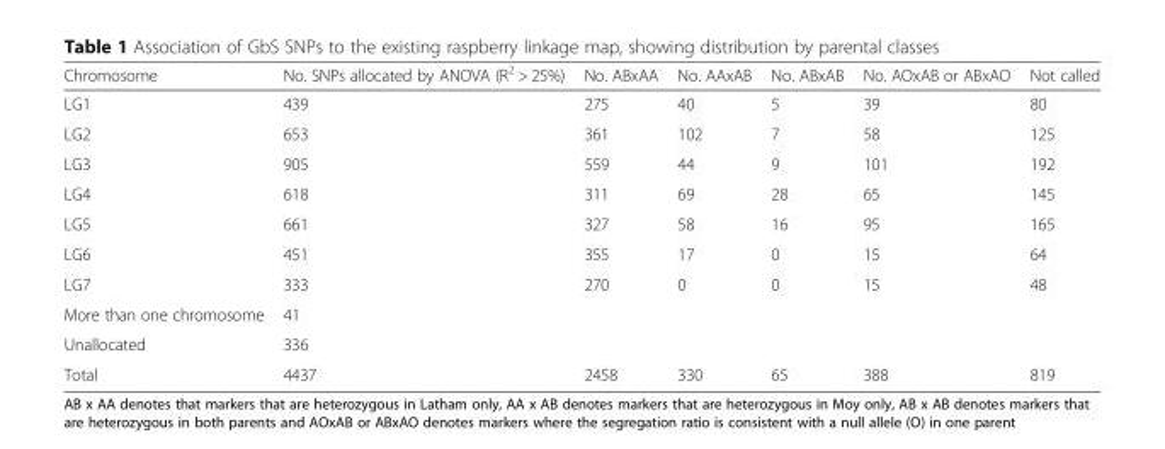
<table><thead><tr><td>Chromosome</td><td>No. SNPs allocated by ANOVA (R<sup>2</sup> &gt; 25%)</td><td>No. ABxAA</td><td>No. AAxAB</td><td>No. ABxAB</td><td>No. AOxAB or ABxAO</td><td>Not called</td></tr></thead><tbody><tr><td>LG1</td><td>439</td><td>275</td><td>40</td><td>5</td><td>39</td><td>80</td></tr><tr><td>LG2</td><td>653</td><td>361</td><td>102</td><td>7</td><td>58</td><td>125</td></tr><tr><td>LG3</td><td>905</td><td>559</td><td>44</td><td>9</td><td>101</td><td>192</td></tr><tr><td>LG4</td><td>618</td><td>311</td><td>69</td><td>28</td><td>65</td><td>145</td></tr><tr><td>LG5</td><td>661</td><td>327</td><td>58</td><td>16</td><td>95</td><td>165</td></tr><tr><td>LG6</td><td>451</td><td>355</td><td>17</td><td>0</td><td>15</td><td>64</td></tr><tr><td>LG7</td><td>333</td><td>270</td><td>0</td><td>0</td><td>15</td><td>48</td></tr><tr><td>More than one chromosome</td><td>41</td><td></td><td></td><td></td><td></td><td></td></tr><tr><td>Unallocated</td><td>336</td><td></td><td></td><td></td><td></td><td></td></tr><tr><td>Total</td><td>4437</td><td>2458</td><td>330</td><td>65</td><td>388</td><td>819</td></tr></tbody></table>